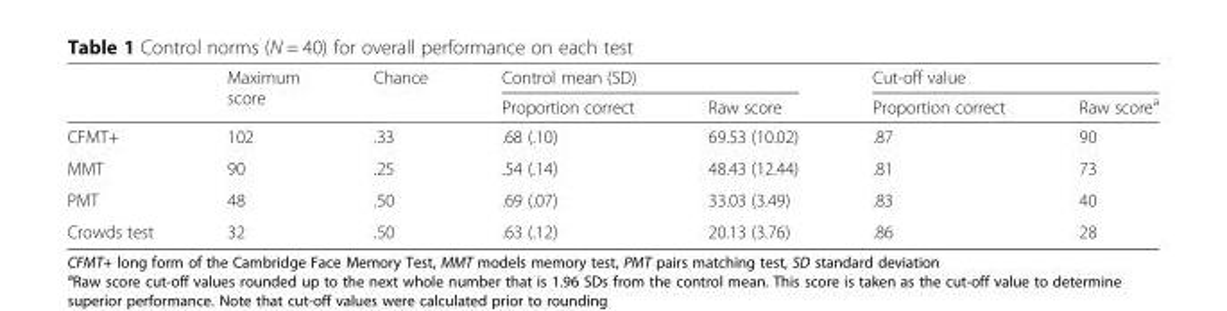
<table><thead><tr><td rowspan="2"></td><td rowspan="2">Maximum score</td><td rowspan="2">Chance</td><td colspan="2">Control mean (SD)</td><td colspan="2">Cut-off value</td></tr><tr><td>Proportion correct</td><td>Raw score</td><td>Proportion correct</td><td>Raw score<sup>a</sup></td></tr></thead><tbody><tr><td>CFMT+</td><td>102</td><td>.33</td><td>.68 (.10)</td><td>69.53 (10.02)</td><td>.87</td><td>90</td></tr><tr><td>MMT</td><td>90</td><td>.25</td><td>.54 (.14)</td><td>48.43 (12.44)</td><td>.81</td><td>73</td></tr><tr><td>PMT</td><td>48</td><td>.50</td><td>.69 (.07)</td><td>33.03 (3.49)</td><td>.83</td><td>40</td></tr><tr><td>Crowds test</td><td>32</td><td>.50</td><td>.63 (.12)</td><td>20.13 (3.76)</td><td>.86</td><td>28</td></tr></tbody></table>